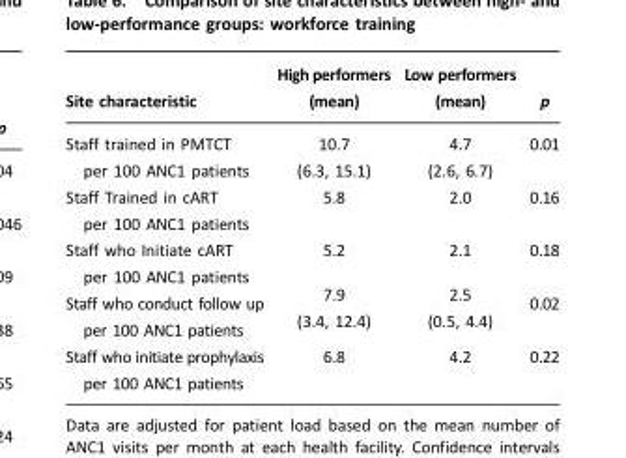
<table><thead><tr><td>Site characteristic</td><td>High performers (mean)</td><td>Low performers (mean)</td><td>p</td></tr></thead><tbody><tr><td>Staff trained in PMTCT per 100 ANC1 patients</td><td>10.7 (6.3, 15.1)</td><td>4.7 (2.6, 6.7)</td><td>0.01</td></tr><tr><td>Staff Trained in cART per 100 ANC1 patients</td><td>5.8</td><td>2.0</td><td>0.16</td></tr><tr><td>Staff who Initiate cART per 100 ANC1 patients</td><td>5.2</td><td>2.1</td><td>0.18</td></tr><tr><td>Staff who conduct follow up per 100 ANC1 patients</td><td>7.9 (3.4, 12.4)</td><td>2.5 (0.5, 4.4)</td><td>0.02</td></tr><tr><td>Staff who initiate prophylaxis per 100 ANC1 patients</td><td>6.8</td><td>4.2</td><td>0.22</td></tr></tbody></table>